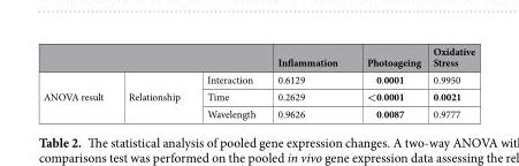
<table><thead><tr><td></td><td></td><td></td><td>Inflammation</td><td>Photoageing</td><td>Oxidative Stress</td></tr></thead><tbody><tr><td rowspan="3">ANOVA result</td><td rowspan="3">Relationship</td><td>Interaction</td><td>0.6129</td><td>0.0001</td><td>0.9950</td></tr><tr><td>Time</td><td>0.2629</td><td>&lt;0.0001</td><td>0.0021</td></tr><tr><td>Wavelength</td><td>0.9626</td><td>0.0087</td><td>0.9777</td></tr></tbody></table>